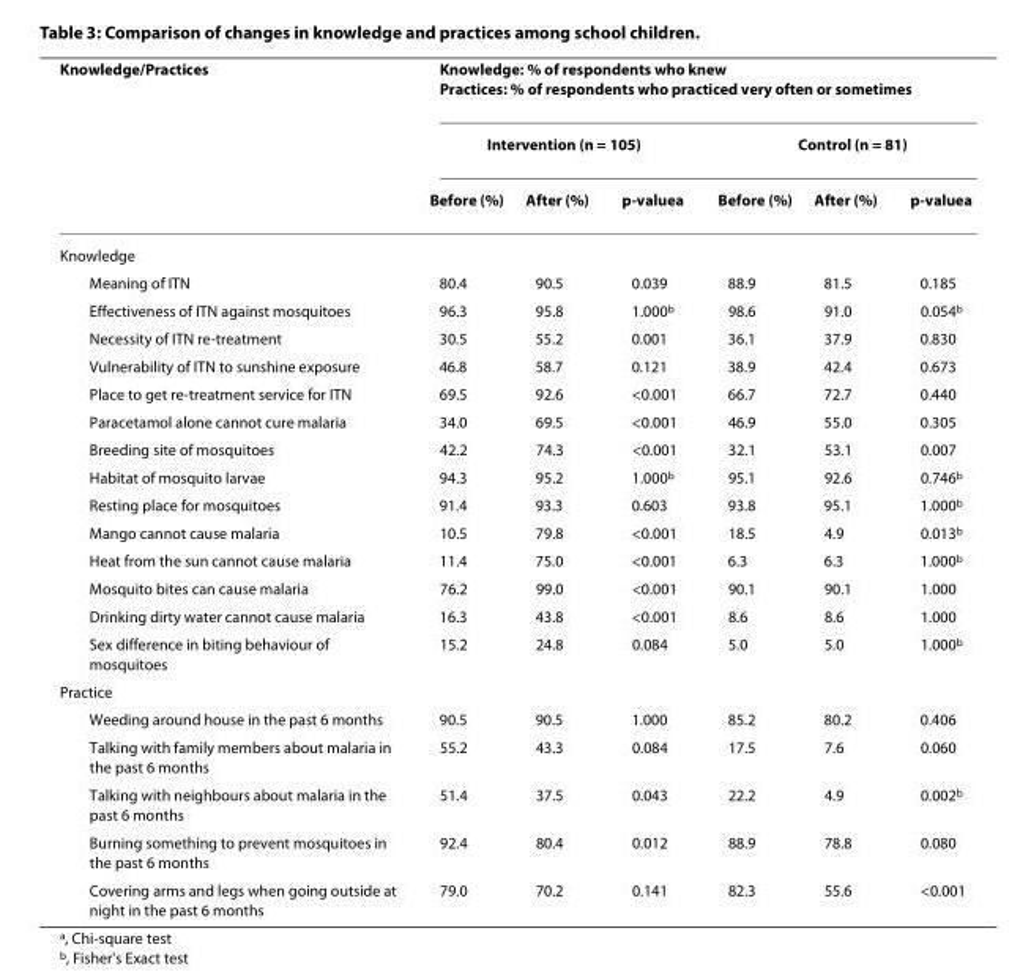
<table><thead><tr><td rowspan="3">Knowledge/Practices</td><td colspan="6">Knowledge: % of respondents who knew Practices: % of respondents who practiced very often or sometimes</td></tr><tr><td colspan="3">Intervention (n = 105)</td><td colspan="3">Control (n = 81)</td></tr><tr><td>Before (%)</td><td>After (%)</td><td>p-value<sup>a</sup></td><td>Before (%)</td><td>After (%)</td><td>p-value<sup>a</sup></td></tr></thead><tbody><tr><td colspan="7">Knowledge</td></tr><tr><td>Meaning of ITN</td><td>80.4</td><td>90.5</td><td>0.039</td><td>88.9</td><td>81.5</td><td>0.185</td></tr><tr><td>Effectiveness of ITN against mosquitoes</td><td>96.3</td><td>95.8</td><td>1.000<sup>b</sup></td><td>98.6</td><td>91.0</td><td>0.054<sup>b</sup></td></tr><tr><td>Necessity of ITN re-treatment</td><td>30.5</td><td>55.2</td><td>0.001</td><td>36.1</td><td>37.9</td><td>0.830</td></tr><tr><td>Vulnerability of ITN to sunshine exposure</td><td>46.8</td><td>58.7</td><td>0.121</td><td>38.9</td><td>42.4</td><td>0.673</td></tr><tr><td>Place to get re-treatment service for ITN</td><td>69.5</td><td>92.6</td><td>&lt;0.001</td><td>66.7</td><td>72.7</td><td>0.440</td></tr><tr><td>Paracetamol alone cannot cure malaria</td><td>34.0</td><td>69.5</td><td>&lt;0.001</td><td>46.9</td><td>55.0</td><td>0.305</td></tr><tr><td>Breeding site of mosquitoes</td><td>42.2</td><td>74.3</td><td>&lt;0.001</td><td>32.1</td><td>53.1</td><td>0.007</td></tr><tr><td>Habitat of mosquito larvae</td><td>94.3</td><td>95.2</td><td>1.000<sup>b</sup></td><td>95.1</td><td>92.6</td><td>0.746<sup>b</sup></td></tr><tr><td>Resting place for mosquitoes</td><td>91.4</td><td>93.3</td><td>0.603</td><td>93.8</td><td>95.1</td><td>1.000<sup>b</sup></td></tr><tr><td>Mango cannot cause malaria</td><td>10.5</td><td>79.8</td><td>&lt;0.001</td><td>18.5</td><td>4.9</td><td>0.013<sup>b</sup></td></tr><tr><td>Heat from the sun cannot cause malaria</td><td>11.4</td><td>75.0</td><td>&lt;0.001</td><td>6.3</td><td>6.3</td><td>1.000<sup>b</sup></td></tr><tr><td>Mosquito bites can cause malaria</td><td>76.2</td><td>99.0</td><td>&lt;0.001</td><td>90.1</td><td>90.1</td><td>1.000</td></tr><tr><td>Drinking dirty water cannot cause malaria</td><td>16.3</td><td>43.8</td><td>&lt;0.001</td><td>8.6</td><td>8.6</td><td>1.000</td></tr><tr><td>Sex difference in biting behaviour of mosquitoes</td><td>15.2</td><td>24.8</td><td>0.084</td><td>5.0</td><td>5.0</td><td>1.000<sup>b</sup></td></tr><tr><td colspan="7">Practice</td></tr><tr><td>Weeding around house in the past 6 months</td><td>90.5</td><td>90.5</td><td>1.000</td><td>85.2</td><td>80.2</td><td>0.406</td></tr><tr><td>Talking with family members about malaria in the past 6 months</td><td>55.2</td><td>43.3</td><td>0.084</td><td>17.5</td><td>7.6</td><td>0.060</td></tr><tr><td>Talking with neighbours about malaria in the past 6 months</td><td>51.4</td><td>37.5</td><td>0.043</td><td>22.2</td><td>4.9</td><td>0.002<sup>b</sup></td></tr><tr><td>Burning something to prevent mosquitoes in the past 6 months</td><td>92.4</td><td>80.4</td><td>0.012</td><td>88.9</td><td>78.8</td><td>0.080</td></tr><tr><td>Covering arms and legs when going outside at night in the past 6 months</td><td>79.0</td><td>70.2</td><td>0.141</td><td>82.3</td><td>55.6</td><td>&lt;0.001</td></tr></tbody></table>